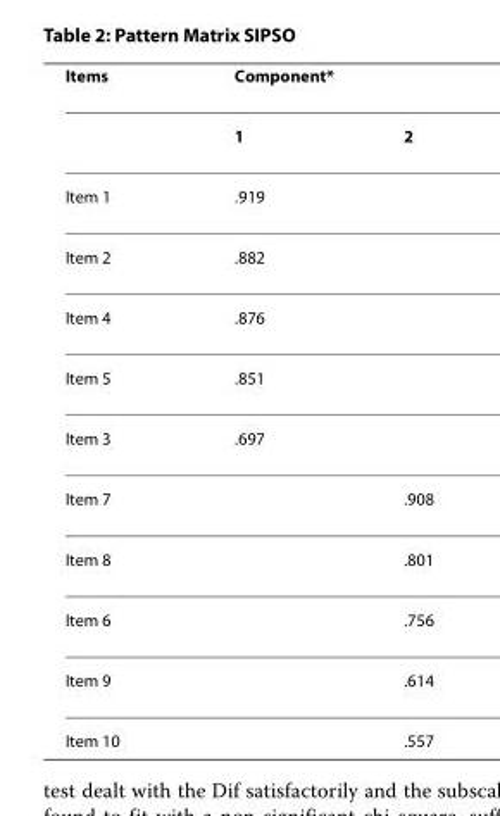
<table><thead><tr><td rowspan="2">Items</td><td colspan="2">Component*</td></tr><tr><td>1</td><td>2</td></tr></thead><tbody><tr><td>Item 1</td><td>.919</td><td></td></tr><tr><td>Item 2</td><td>.882</td><td></td></tr><tr><td>Item 4</td><td>.876</td><td></td></tr><tr><td>Item 5</td><td>.851</td><td></td></tr><tr><td>Item 3</td><td>.697</td><td></td></tr><tr><td>Item 7</td><td></td><td>.908</td></tr><tr><td>Item 8</td><td></td><td>.801</td></tr><tr><td>Item 6</td><td></td><td>.756</td></tr><tr><td>Item 9</td><td></td><td>.614</td></tr><tr><td>Item 10</td><td></td><td>.557</td></tr></tbody></table>